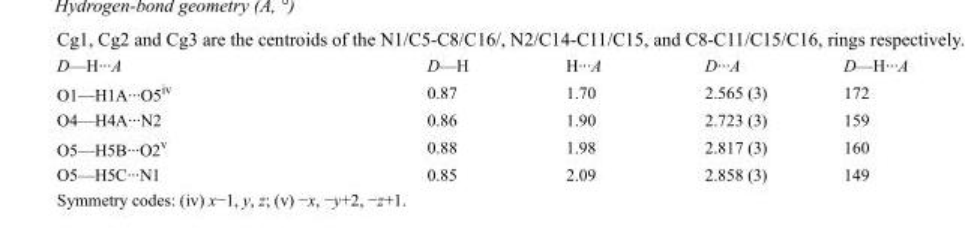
<table><tbody><tr><td>D—H···A</td><td>D—H</td><td>H···A</td><td>D···A</td><td>D—H···A</td></tr><tr><td>O1—H1A···O5<sup>iv</sup></td><td>0.87</td><td>1.70</td><td>2.565 (3)</td><td>172</td></tr><tr><td>O4—H4A···N2</td><td>0.86</td><td>1.90</td><td>2.723 (3)</td><td>159</td></tr><tr><td>O5—H5B···O2<sup>v</sup></td><td>0.88</td><td>1.98</td><td>2.817 (3)</td><td>160</td></tr><tr><td>O5—H5C···N1</td><td>0.85</td><td>2.09</td><td>2.858 (3)</td><td>149</td></tr></tbody></table>